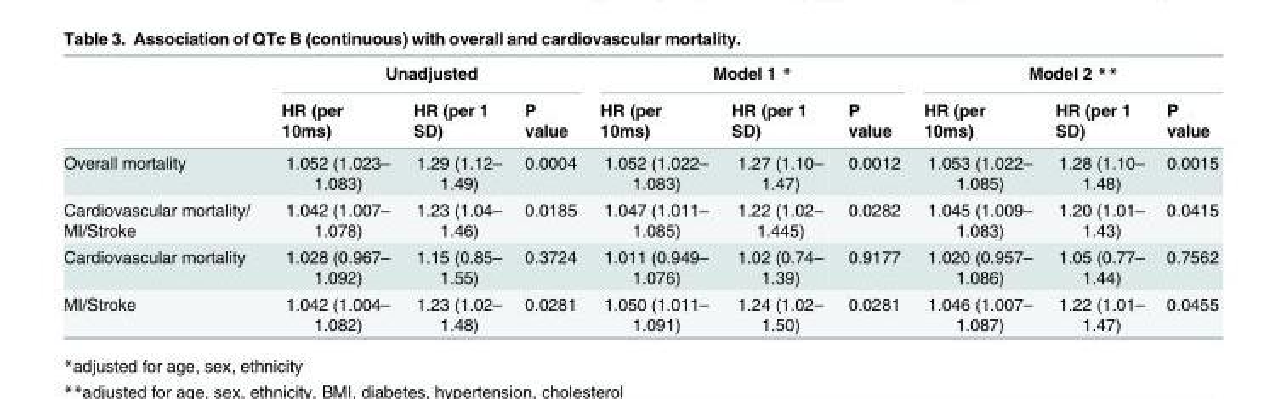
<table><thead><tr><td rowspan="2"></td><td colspan="3">Unadjusted</td><td colspan="3">Model 1 *</td><td colspan="3">Model 2 **</td></tr><tr><td>HR (per 10ms)</td><td>HR (per 1 SD)</td><td>P value</td><td>HR (per 10ms)</td><td>HR (per 1 SD)</td><td>P value</td><td>HR (per 10ms)</td><td>HR (per 1 SD)</td><td>P value</td></tr></thead><tbody><tr><td>Overall mortality</td><td>1.052 (1.023– 1.083)</td><td>1.29 (1.12– 1.49)</td><td>0.0004</td><td>1.052 (1.022– 1.083)</td><td>1.27 (1.10– 1.47)</td><td>0.0012</td><td>1.053 (1.022– 1.085)</td><td>1.28 (1.10– 1.48)</td><td>0.0015</td></tr><tr><td>Cardiovascular mortality/ MI/Stroke</td><td>1.042 (1.007– 1.078)</td><td>1.23 (1.04– 1.46)</td><td>0.0185</td><td>1.047 (1.011– 1.085)</td><td>1.22 (1.02– 1.445)</td><td>0.0282</td><td>1.045 (1.009– 1.083)</td><td>1.20 (1.01– 1.43)</td><td>0.0415</td></tr><tr><td>Cardiovascular mortality</td><td>1.028 (0.967– 1.092)</td><td>1.15 (0.85– 1.55)</td><td>0.3724</td><td>1.011 (0.949– 1.076)</td><td>1.02 (0.74– 1.39)</td><td>0.9177</td><td>1.020 (0.957– 1.086)</td><td>1.05 (0.77– 1.44)</td><td>0.7562</td></tr><tr><td>MI/Stroke</td><td>1.042 (1.004– 1.082)</td><td>1.23 (1.02– 1.48)</td><td>0.0281</td><td>1.050 (1.011– 1.091)</td><td>1.24 (1.02– 1.50)</td><td>0.0281</td><td>1.046 (1.007– 1.087)</td><td>1.22 (1.01– 1.47)</td><td>0.0455</td></tr></tbody></table>